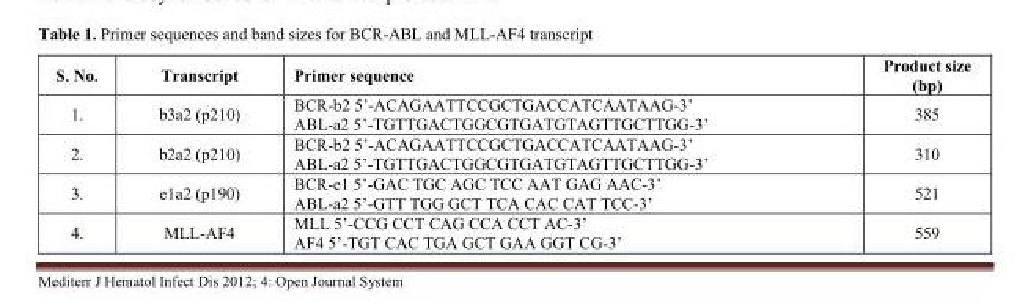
<table><thead><tr><td>S. No.</td><td>Transcript</td><td>Primer sequence</td><td>Product size (bp)</td></tr></thead><tbody><tr><td>1.</td><td>b3a2 (p210)</td><td>BCR-b2 5’-ACAGAATTCCGCTGACCATCAATAAG-3’ ABL-a2 5’-TGTTGACTGGCGTGATGTAGTTGCTTGG-3’</td><td>385</td></tr><tr><td>2.</td><td>b2a2 (p210)</td><td>BCR-b2 5’-ACAGAATTCCGCTGACCATCAATAAG-3’ ABL-a2 5’-TGTTGACTGGCGTGATGTAGTTGCTTGG-3’</td><td>310</td></tr><tr><td>3.</td><td>e1a2 (p190)</td><td>BCR-e1 5’-GAC TGC AGC TCC AAT GAG AAC-3’ ABL-a2 5’-GTT TGG GCT TCA CAC CAT TCC-3’</td><td>521</td></tr><tr><td>4.</td><td>MLL-AF4</td><td>MLL 5’-CCG CCT CAG CCA CCT AC-3’ AF4 5’-TGT CAC TGA GCT GAA GGT CG-3’</td><td>559</td></tr></tbody></table>